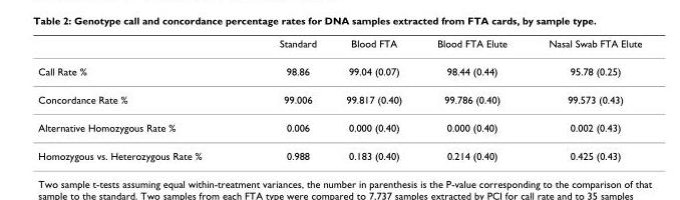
<table><thead><tr><td></td><td>Standard</td><td>Blood FTA</td><td>Blood FTA Elute</td><td>Nasal Swab FTA Elute</td></tr></thead><tbody><tr><td>Call Rate %</td><td>98.86</td><td>99.04 (0.07)</td><td>98.44 (0.44)</td><td>95.78 (0.25)</td></tr><tr><td>Concordance Rate %</td><td>99.006</td><td>99.817 (0.40)</td><td>99.786 (0.40)</td><td>99.573 (0.43)</td></tr><tr><td>Alternative Homozygous Rate %</td><td>0.006</td><td>0.000 (0.40)</td><td>0.000 (0.40)</td><td>0.002 (0.43)</td></tr><tr><td>Homozygous vs. Heterozygous Rate %</td><td>0.988</td><td>0.183 (0.40)</td><td>0.214 (0.40)</td><td>0.425 (0.43)</td></tr></tbody></table>